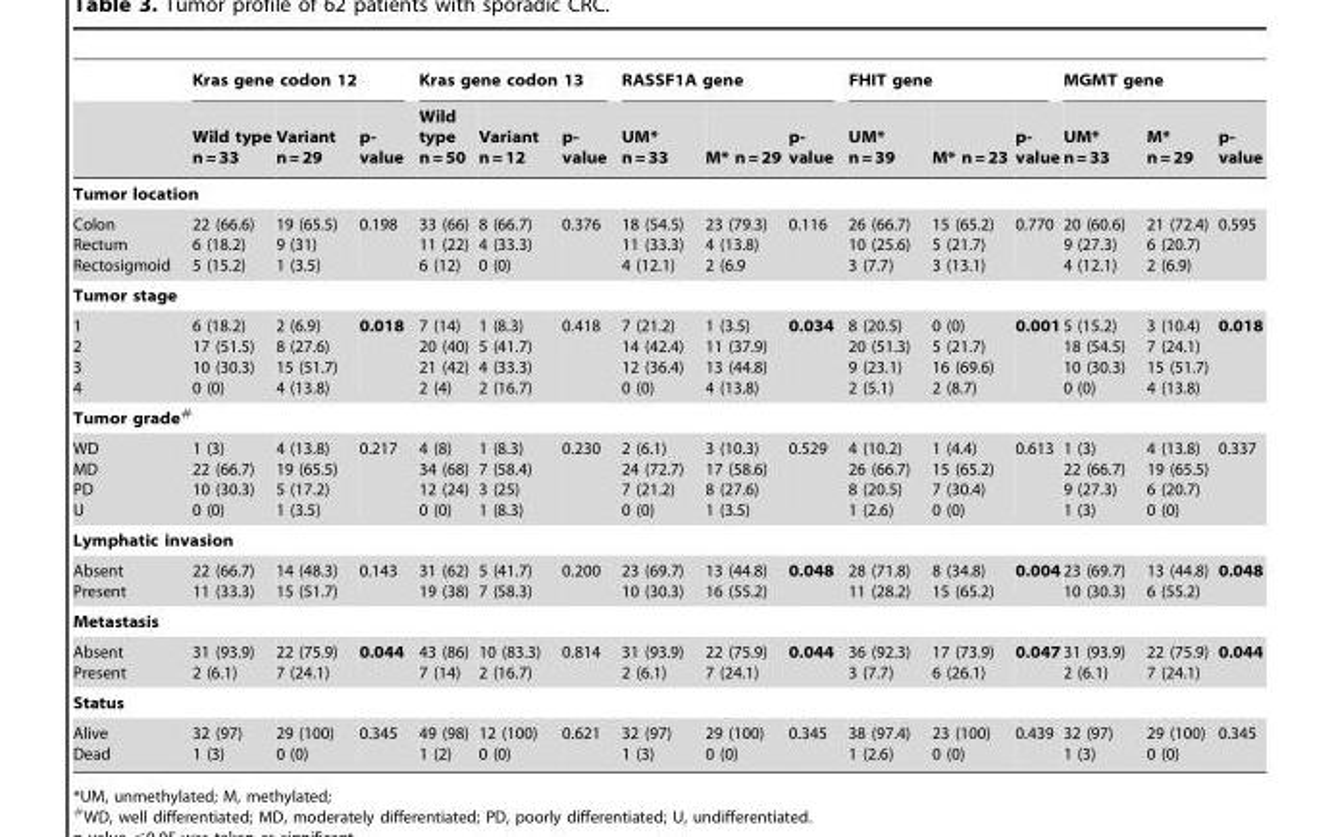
<table><thead><tr><td rowspan="2"></td><td colspan="3">Kras gene codon 12</td><td colspan="3">Kras gene codon 13</td><td colspan="3">RASSF1A gene</td><td colspan="3">FHIT gene</td><td colspan="3">MGMT gene</td></tr><tr><td>Wild type n = 33</td><td>Variant n = 29</td><td>p- value</td><td>Wild type n = 50</td><td>Variant n = 12</td><td>p- value</td><td>UM* n = 33</td><td>M* n = 29</td><td>p- value</td><td>UM* n = 39</td><td>M* n = 23</td><td>p- value</td><td>UM* n = 33</td><td>M* n = 29</td><td>p- value</td></tr></thead><tbody><tr><td colspan="16">Tumor location</td></tr><tr><td>Colon Rectum Rectosigmoid</td><td>22 (66.6) 6 (18.2) 5 (15.2)</td><td>19 (65.5) 9 (31) 1 (3.5)</td><td>0.198</td><td>33 (66) 11 (22) 6 (12)</td><td>8 (66.7) 4 (33.3) 0 (0)</td><td>0.376</td><td>18 (54.5) 11 (33.3) 4 (12.1)</td><td>23 (79.3) 4 (13.8) 2 (6.9</td><td>0.116</td><td>26 (66.7) 10 (25.6) 3 (7.7)</td><td>15 (65.2) 5 (21.7) 3 (13.1)</td><td>0.770</td><td>20 (60.6) 9 (27.3) 4 (12.1)</td><td>21 (72.4) 6 (20.7) 2 (6.9)</td><td>0.595</td></tr><tr><td colspan="16">Tumor stage</td></tr><tr><td>1 2 3 4</td><td>6 (18.2) 17 (51.5) 10 (30.3) 0 (0)</td><td>2 (6.9) 8 (27.6) 15 (51.7) 4 (13.8)</td><td>0.018</td><td>7 (14) 20 (40) 21 (42) 2 (4)</td><td>1 (8.3) 5 (41.7) 4 (33.3) 2 (16.7)</td><td>0.418</td><td>7 (21.2) 14 (42.4) 12 (36.4) 0 (0)</td><td>1 (3.5) 11 (37.9) 13 (44.8) 4 (13.8)</td><td>0.034</td><td>8 (20.5) 20 (51.3) 9 (23.1) 2 (5.1)</td><td>0 (0) 5 (21.7) 16 (69.6) 2 (8.7)</td><td>0.001</td><td>5 (15.2) 18 (54.5) 10 (30.3) 0 (0)</td><td>3 (10.4) 7 (24.1) 15 (51.7) 4 (13.8)</td><td>0.018</td></tr><tr><td colspan="16">Tumor grade#</td></tr><tr><td>WD MD PD U</td><td>1 (3) 22 (66.7) 10 (30.3) 0 (0)</td><td>4 (13.8) 19 (65.5) 5 (17.2) 1 (3.5)</td><td>0.217</td><td>4 (8) 34 (68) 12 (24) 0 (0)</td><td>1 (8.3) 7 (58.4) 3 (25) 1 (8.3)</td><td>0.230</td><td>2 (6.1) 24 (72.7) 7 (21.2) 0 (0)</td><td>3 (10.3) 17 (58.6) 8 (27.6) 1 (3.5)</td><td>0.529</td><td>4 (10.2) 26 (66.7) 8 (20.5) 1 (2.6)</td><td>1 (4.4) 15 (65.2) 7 (30.4) 0 (0)</td><td>0.613</td><td>1 (3) 22 (66.7) 9 (27.3) 1 (3)</td><td>4 (13.8) 19 (65.5) 6 (20.7) 0 (0)</td><td>0.337</td></tr><tr><td colspan="16">Lymphatic invasion</td></tr><tr><td>Absent Present</td><td>22 (66.7) 11 (33.3)</td><td>14 (48.3) 15 (51.7)</td><td>0.143</td><td>31 (62) 19 (38)</td><td>5 (41.7) 7 (58.3)</td><td>0.200</td><td>23 (69.7) 10 (30.3)</td><td>13 (44.8) 16 (55.2)</td><td>0.048</td><td>28 (71.8) 11 (28.2)</td><td>8 (34.8) 15 (65.2)</td><td>0.004</td><td>23 (69.7) 10 (30.3)</td><td>13 (44.8) 6 (55.2)</td><td>0.048</td></tr><tr><td colspan="16">Metastasis</td></tr><tr><td>Absent Present</td><td>31 (93.9) 2 (6.1)</td><td>22 (75.9) 7 (24.1)</td><td>0.044</td><td>43 (86) 7 (14)</td><td>10 (83.3) 2 (16.7)</td><td>0.814</td><td>31 (93.9) 2 (6.1)</td><td>22 (75.9) 7 (24.1)</td><td>0.044</td><td>36 (92.3) 3 (7.7)</td><td>17 (73.9) 6 (26.1)</td><td>0.047</td><td>31 (93.9) 2 (6.1)</td><td>22 (75.9) 7 (24.1)</td><td>0.044</td></tr><tr><td colspan="16">Status</td></tr><tr><td>Alive Dead</td><td>32 (97) 1 (3)</td><td>29 (100) 0 (0)</td><td>0.345</td><td>49 (98) 1 (2)</td><td>12 (100) 0 (0)</td><td>0.621</td><td>32 (97) 1 (3)</td><td>29 (100) 0 (0)</td><td>0.345</td><td>38 (97.4) 1 (2.6)</td><td>23 (100) 0 (0)</td><td>0.439</td><td>32 (97) 1 (3)</td><td>29 (100) 0 (0)</td><td>0.345</td></tr></tbody></table>